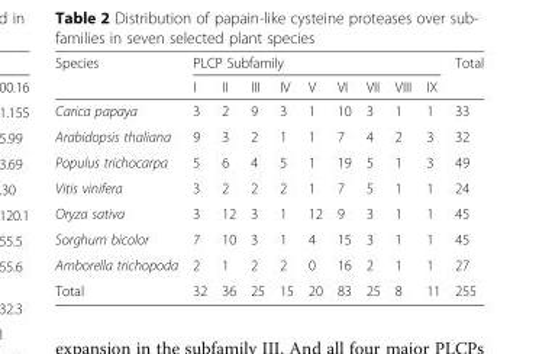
<table><thead><tr><td rowspan="2">Species</td><td colspan="9">PLCP Subfamily</td><td rowspan="2">Total</td></tr><tr><td>I</td><td>II</td><td>III</td><td>IV</td><td>V</td><td>VI</td><td>VII</td><td>VIII</td><td>IX</td></tr></thead><tbody><tr><td>Carica papaya</td><td>3</td><td>2</td><td>9</td><td>3</td><td>1</td><td>10</td><td>3</td><td>1</td><td>1</td><td>33</td></tr><tr><td>Arabidopsis thaliana</td><td>9</td><td>3</td><td>2</td><td>1</td><td>1</td><td>7</td><td>4</td><td>2</td><td>3</td><td>32</td></tr><tr><td>Populus trichocarpa</td><td>5</td><td>6</td><td>4</td><td>5</td><td>1</td><td>19</td><td>5</td><td>1</td><td>3</td><td>49</td></tr><tr><td>Vitis vinifera</td><td>3</td><td>2</td><td>2</td><td>2</td><td>1</td><td>7</td><td>5</td><td>1</td><td>1</td><td>24</td></tr><tr><td>Oryza sativa</td><td>3</td><td>12</td><td>3</td><td>1</td><td>12</td><td>9</td><td>3</td><td>1</td><td>1</td><td>45</td></tr><tr><td>Sorghum bicolor</td><td>7</td><td>10</td><td>3</td><td>1</td><td>4</td><td>15</td><td>3</td><td>1</td><td>1</td><td>45</td></tr><tr><td>Amborella trichopoda</td><td>2</td><td>1</td><td>2</td><td>2</td><td>0</td><td>16</td><td>2</td><td>1</td><td>1</td><td>27</td></tr><tr><td>Total</td><td>32</td><td>36</td><td>25</td><td>15</td><td>20</td><td>83</td><td>25</td><td>8</td><td>11</td><td>255</td></tr></tbody></table>